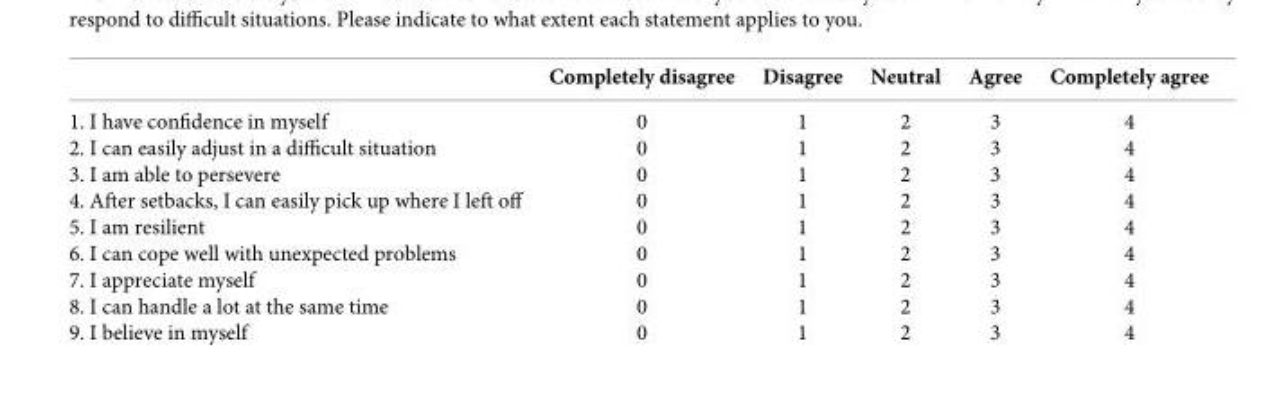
<table><thead><tr><td></td><td>Completely disagree</td><td>Disagree</td><td>Neutral</td><td>Agree</td><td>Completely agree</td></tr></thead><tbody><tr><td>1. I have confidence in myself</td><td>0</td><td>1</td><td>2</td><td>3</td><td>4</td></tr><tr><td>2. I can easily adjust in a difficult situation</td><td>0</td><td>1</td><td>2</td><td>3</td><td>4</td></tr><tr><td>3. I am able to persevere</td><td>0</td><td>1</td><td>2</td><td>3</td><td>4</td></tr><tr><td>4. After setbacks, I can easily pick up where I left off</td><td>0</td><td>1</td><td>2</td><td>3</td><td>4</td></tr><tr><td>5. I am resilient</td><td>0</td><td>1</td><td>2</td><td>3</td><td>4</td></tr><tr><td>6. I can cope well with unexpected problems</td><td>0</td><td>1</td><td>2</td><td>3</td><td>4</td></tr><tr><td>7. I appreciate myself</td><td>0</td><td>1</td><td>2</td><td>3</td><td>4</td></tr><tr><td>8. I can handle a lot at the same time</td><td>0</td><td>1</td><td>2</td><td>3</td><td>4</td></tr><tr><td>9. I believe in myself</td><td>0</td><td>1</td><td>2</td><td>3</td><td>4</td></tr></tbody></table>